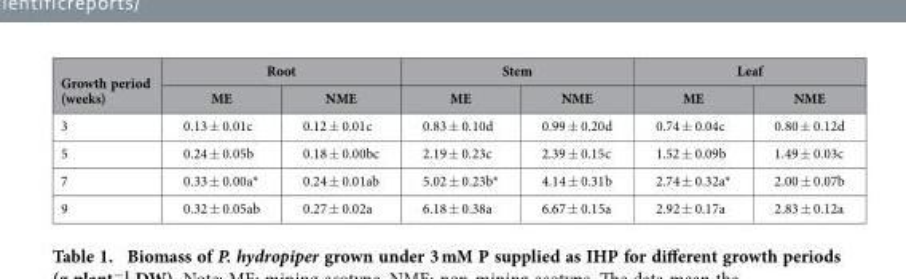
<table><thead><tr><td rowspan="2">Growth period (weeks)</td><td colspan="2">Root</td><td colspan="2">Stem</td><td colspan="2">Leaf</td></tr><tr><td>ME</td><td>NME</td><td>ME</td><td>NME</td><td>ME</td><td>NME</td></tr></thead><tbody><tr><td>3</td><td>0.13 ± 0.01c</td><td>0.12 ± 0.01c</td><td>0.83 ± 0.10d</td><td>0.99 ± 0.20d</td><td>0.74 ± 0.04c</td><td>0.80 ± 0.12d</td></tr><tr><td>5</td><td>0.24 ± 0.05b</td><td>0.18 ± 0.00bc</td><td>2.19 ± 0.23c</td><td>2.39 ± 0.15c</td><td>1.52 ± 0.09b</td><td>1.49 ± 0.03c</td></tr><tr><td>7</td><td>0.33 ± 0.00a*</td><td>0.24 ± 0.01ab</td><td>5.02 ± 0.23b*</td><td>4.14 ± 0.31b</td><td>2.74 ± 0.32a*</td><td>2.00 ± 0.07b</td></tr><tr><td>9</td><td>0.32 ± 0.05ab</td><td>0.27 ± 0.02a</td><td>6.18 ± 0.38a</td><td>6.67 ± 0.15a</td><td>2.92 ± 0.17a</td><td>2.83 ± 0.12a</td></tr></tbody></table>